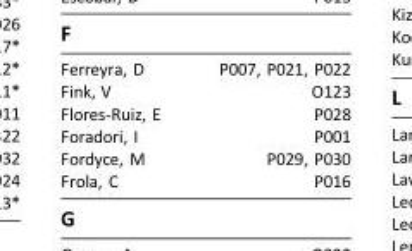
<table><tbody><tr><td>Ferreyra, D</td><td>P007, P021, P022</td></tr><tr><td>Fink, V</td><td>O123</td></tr><tr><td>Flores-Ruiz, E</td><td>P028</td></tr><tr><td>Foradori, I</td><td>P001</td></tr><tr><td>Fordyce, M</td><td>P029, P030</td></tr><tr><td>Frola, C</td><td>P016</td></tr></tbody></table>